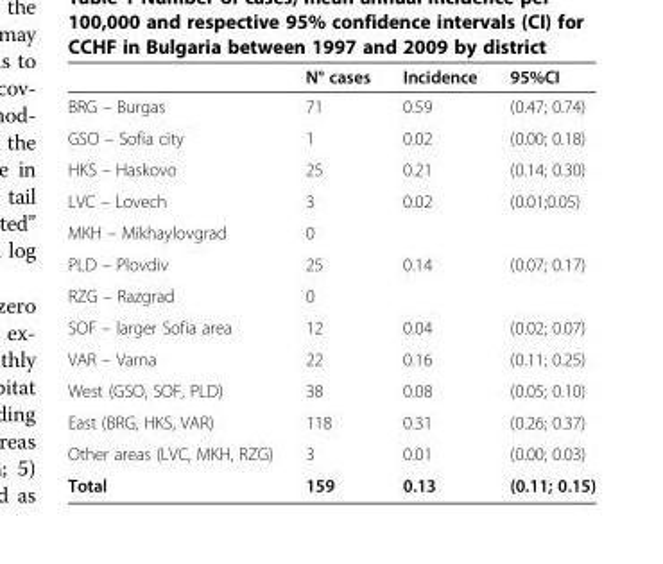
<table><thead><tr><td></td><td>N° cases</td><td>Incidence</td><td>95%CI</td></tr></thead><tbody><tr><td>BRG – Burgas</td><td>71</td><td>0.59</td><td>(0.47; 0.74)</td></tr><tr><td>GSO – Sofia city</td><td>1</td><td>0.02</td><td>(0.00; 0.18)</td></tr><tr><td>HKS – Haskovo</td><td>25</td><td>0.21</td><td>(0.14; 0.30)</td></tr><tr><td>LVC – Lovech</td><td>3</td><td>0.02</td><td>(0.01;0.05)</td></tr><tr><td>MKH – Mikhaylovgrad</td><td>0</td><td></td><td></td></tr><tr><td>PLD – Plovdiv</td><td>25</td><td>0.14</td><td>(0.07; 0.17)</td></tr><tr><td>RZG – Razgrad</td><td>0</td><td></td><td></td></tr><tr><td>SOF – larger Sofia area</td><td>12</td><td>0.04</td><td>(0.02; 0.07)</td></tr><tr><td>VAR – Varna</td><td>22</td><td>0.16</td><td>(0.11; 0.25)</td></tr><tr><td>West (GSO, SOF, PLD)</td><td>38</td><td>0.08</td><td>(0.05; 0.10)</td></tr><tr><td>East (BRG, HKS, VAR)</td><td>118</td><td>0.31</td><td>(0.26; 0.37)</td></tr><tr><td>Other areas (LVC, MKH, RZG)</td><td>3</td><td>0.01</td><td>(0.00; 0.03)</td></tr><tr><td>Total</td><td>159</td><td>0.13</td><td>(0.11; 0.15)</td></tr></tbody></table>